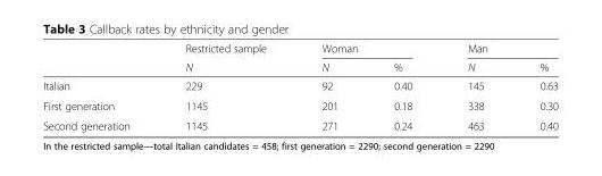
<table><thead><tr><td rowspan="2"></td><td rowspan="2">Restricted sample N</td><td colspan="2">Woman</td><td colspan="2">Man</td></tr><tr><td>N</td><td>%</td><td>N</td><td>%</td></tr></thead><tbody><tr><td>Italian</td><td>229</td><td>92</td><td>0.40</td><td>145</td><td>0.63</td></tr><tr><td>First generation</td><td>1145</td><td>201</td><td>0.18</td><td>338</td><td>0.30</td></tr><tr><td>Second generation</td><td>1145</td><td>271</td><td>0.24</td><td>463</td><td>0.40</td></tr></tbody></table>